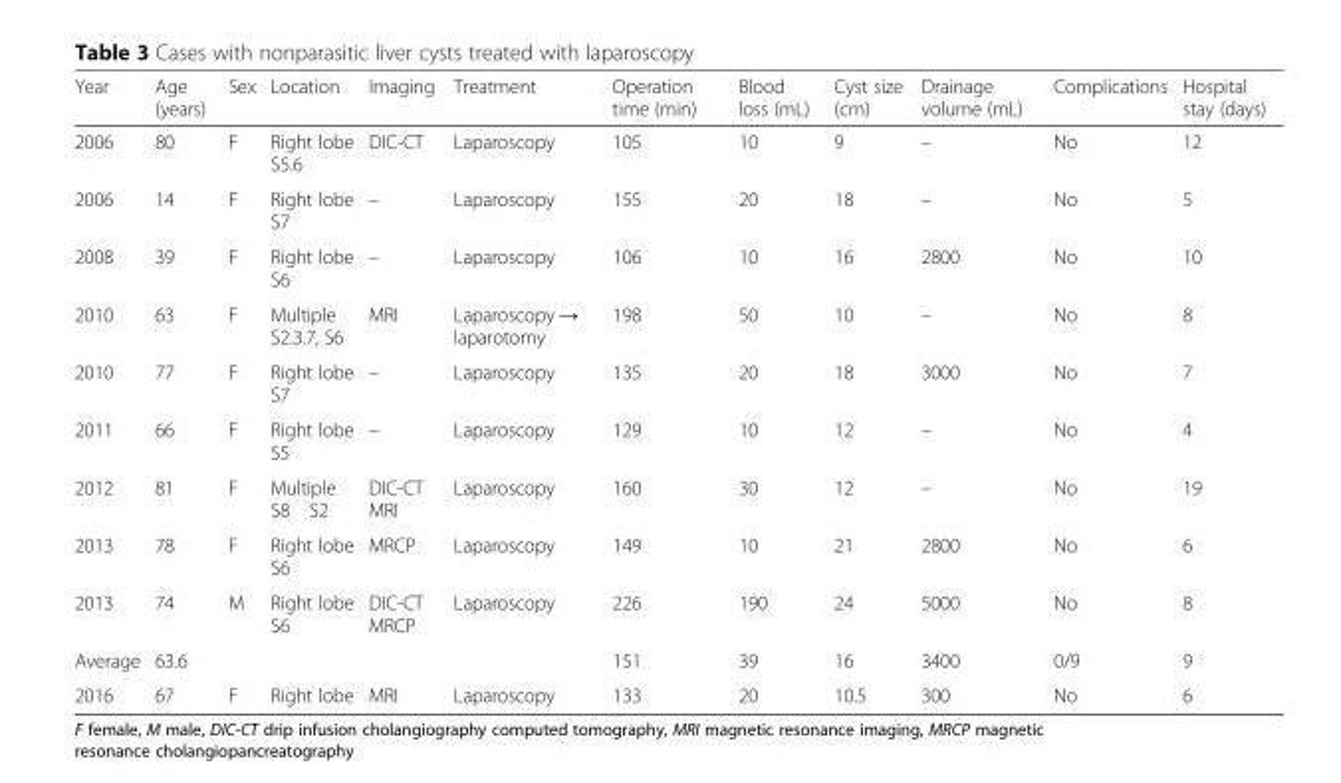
<table><thead><tr><td>Year</td><td>Age (years)</td><td>Sex</td><td>Location</td><td>Imaging</td><td>Treatment</td><td>Operation time (min)</td><td>Blood loss (mL)</td><td>Cyst size (cm)</td><td>Drainage volume (mL)</td><td>Complications</td><td>Hospital stay (days)</td></tr></thead><tbody><tr><td>2006</td><td>80</td><td>F</td><td>Right lobe S5.6</td><td>DIC-CT</td><td>Laparoscopy</td><td>105</td><td>10</td><td>9</td><td>–</td><td>No</td><td>12</td></tr><tr><td>2006</td><td>14</td><td>F</td><td>Right lobe S7</td><td>–</td><td>Laparoscopy</td><td>155</td><td>20</td><td>18</td><td>–</td><td>No</td><td>5</td></tr><tr><td>2008</td><td>39</td><td>F</td><td>Right lobe S6</td><td>–</td><td>Laparoscopy</td><td>106</td><td>10</td><td>16</td><td>2800</td><td>No</td><td>10</td></tr><tr><td>2010</td><td>63</td><td>F</td><td>Multiple S2.3.7, S6</td><td>MRI</td><td>Laparoscopy → laparotomy</td><td>198</td><td>50</td><td>10</td><td>–</td><td>No</td><td>8</td></tr><tr><td>2010</td><td>77</td><td>F</td><td>Right lobe S7</td><td>–</td><td>Laparoscopy</td><td>135</td><td>20</td><td>18</td><td>3000</td><td>No</td><td>7</td></tr><tr><td>2011</td><td>66</td><td>F</td><td>Right lobe S5</td><td>–</td><td>Laparoscopy</td><td>129</td><td>10</td><td>12</td><td>–</td><td>No</td><td>4</td></tr><tr><td>2012</td><td>81</td><td>F</td><td>Multiple S8 S2</td><td>DIC-CT MRI</td><td>Laparoscopy</td><td>160</td><td>30</td><td>12</td><td>–</td><td>No</td><td>19</td></tr><tr><td>2013</td><td>78</td><td>F</td><td>Right lobe S6</td><td>MRCP</td><td>Laparoscopy</td><td>149</td><td>10</td><td>21</td><td>2800</td><td>No</td><td>6</td></tr><tr><td>2013</td><td>74</td><td>M</td><td>Right lobe S6</td><td>DIC-CT MRCP</td><td>Laparoscopy</td><td>226</td><td>190</td><td>24</td><td>5000</td><td>No</td><td>8</td></tr><tr><td>Average</td><td>63.6</td><td></td><td></td><td></td><td></td><td>151</td><td>39</td><td>16</td><td>3400</td><td>0/9</td><td>9</td></tr><tr><td>2016</td><td>67</td><td>F</td><td>Right lobe</td><td>MRI</td><td>Laparoscopy</td><td>133</td><td>20</td><td>10.5</td><td>300</td><td>No</td><td>6</td></tr></tbody></table>